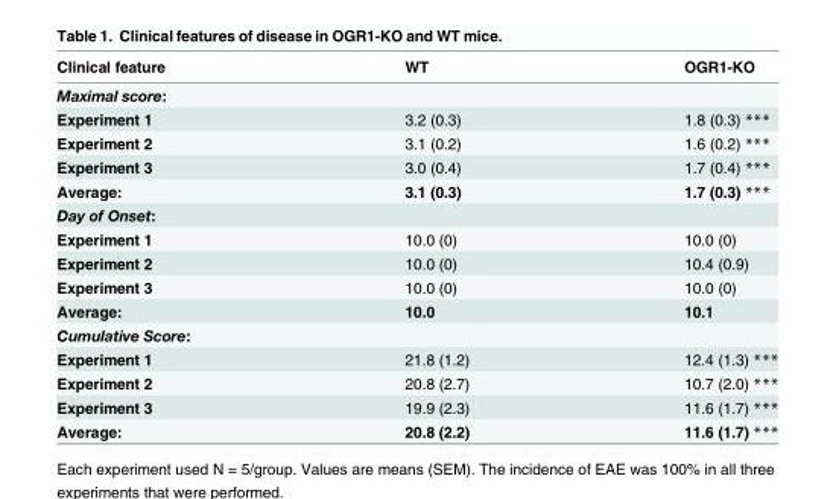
<table><thead><tr><td>Clinical feature</td><td>WT</td><td>OGR1-KO</td></tr></thead><tbody><tr><td colspan="3">Maximal score:</td></tr><tr><td>Experiment 1</td><td>3.2 (0.3)</td><td>1.8 (0.3) ***</td></tr><tr><td>Experiment 2</td><td>3.1 (0.2)</td><td>1.6 (0.2) ***</td></tr><tr><td>Experiment 3</td><td>3.0 (0.4)</td><td>1.7 (0.4) ***</td></tr><tr><td>Average:</td><td>3.1 (0.3)</td><td>1.7 (0.3) ***</td></tr><tr><td colspan="3">Day of Onset:</td></tr><tr><td>Experiment 1</td><td>10.0 (0)</td><td>10.0 (0)</td></tr><tr><td>Experiment 2</td><td>10.0 (0)</td><td>10.4 (0.9)</td></tr><tr><td>Experiment 3</td><td>10.0 (0)</td><td>10.0 (0)</td></tr><tr><td>Average:</td><td>10.0</td><td>10.1</td></tr><tr><td colspan="3">Cumulative Score:</td></tr><tr><td>Experiment 1</td><td>21.8 (1.2)</td><td>12.4 (1.3) ***</td></tr><tr><td>Experiment 2</td><td>20.8 (2.7)</td><td>10.7 (2.0) ***</td></tr><tr><td>Experiment 3</td><td>19.9 (2.3)</td><td>11.6 (1.7) ***</td></tr><tr><td>Average:</td><td>20.8 (2.2)</td><td>11.6 (1.7) ***</td></tr></tbody></table>